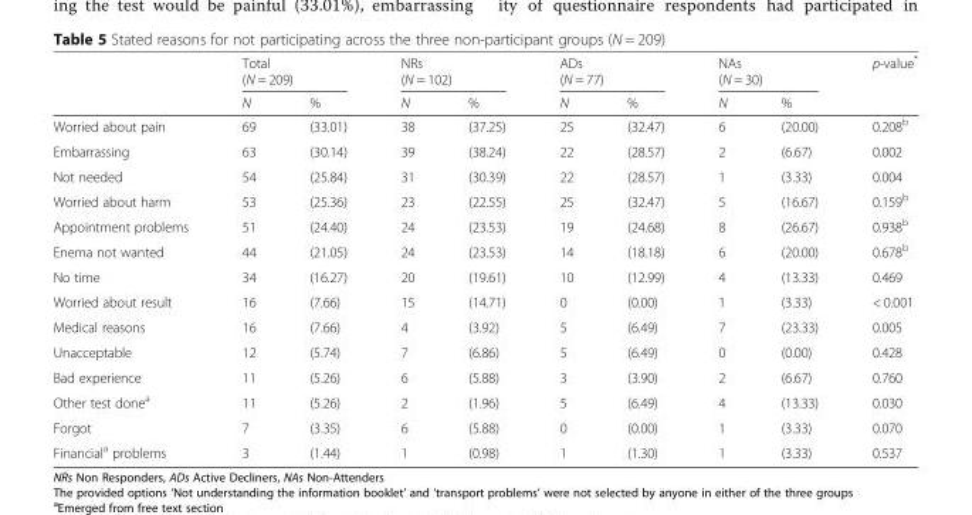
<table><thead><tr><td rowspan="2"></td><td colspan="2">Total (N = 209)</td><td colspan="2">NRs (N = 102)</td><td colspan="2">ADs (N = 77)</td><td colspan="2">NAs (N = 30)</td><td rowspan="2">p-value*</td></tr><tr><td>N</td><td>%</td><td>N</td><td>%</td><td>N</td><td>%</td><td>N</td><td>%</td></tr></thead><tbody><tr><td>Worried about pain</td><td>69</td><td>(33.01)</td><td>38</td><td>(37.25)</td><td>25</td><td>(32.47)</td><td>6</td><td>(20.00)</td><td>0.208<sup>b</sup></td></tr><tr><td>Embarrassing</td><td>63</td><td>(30.14)</td><td>39</td><td>(38.24)</td><td>22</td><td>(28.57)</td><td>2</td><td>(6.67)</td><td>0.002</td></tr><tr><td>Not needed</td><td>54</td><td>(25.84)</td><td>31</td><td>(30.39)</td><td>22</td><td>(28.57)</td><td>1</td><td>(3.33)</td><td>0.004</td></tr><tr><td>Worried about harm</td><td>53</td><td>(25.36)</td><td>23</td><td>(22.55)</td><td>25</td><td>(32.47)</td><td>5</td><td>(16.67)</td><td>0.159<sup>b</sup></td></tr><tr><td>Appointment problems</td><td>51</td><td>(24.40)</td><td>24</td><td>(23.53)</td><td>19</td><td>(24.68)</td><td>8</td><td>(26.67)</td><td>0.938<sup>b</sup></td></tr><tr><td>Enema not wanted</td><td>44</td><td>(21.05)</td><td>24</td><td>(23.53)</td><td>14</td><td>(18.18)</td><td>6</td><td>(20.00)</td><td>0.678<sup>b</sup></td></tr><tr><td>No time</td><td>34</td><td>(16.27)</td><td>20</td><td>(19.61)</td><td>10</td><td>(12.99)</td><td>4</td><td>(13.33)</td><td>0.469</td></tr><tr><td>Worried about result</td><td>16</td><td>(7.66)</td><td>15</td><td>(14.71)</td><td>0</td><td>(0.00)</td><td>1</td><td>(3.33)</td><td>&lt; 0.001</td></tr><tr><td>Medical reasons</td><td>16</td><td>(7.66)</td><td>4</td><td>(3.92)</td><td>5</td><td>(6.49)</td><td>7</td><td>(23.33)</td><td>0.005</td></tr><tr><td>Unacceptable</td><td>12</td><td>(5.74)</td><td>7</td><td>(6.86)</td><td>5</td><td>(6.49)</td><td>0</td><td>(0.00)</td><td>0.428</td></tr><tr><td>Bad experience</td><td>11</td><td>(5.26)</td><td>6</td><td>(5.88)</td><td>3</td><td>(3.90)</td><td>2</td><td>(6.67)</td><td>0.760</td></tr><tr><td>Other test done<sup>a</sup></td><td>11</td><td>(5.26)</td><td>2</td><td>(1.96)</td><td>5</td><td>(6.49)</td><td>4</td><td>(13.33)</td><td>0.030</td></tr><tr><td>Forgot</td><td>7</td><td>(3.35)</td><td>6</td><td>(5.88)</td><td>0</td><td>(0.00)</td><td>1</td><td>(3.33)</td><td>0.070</td></tr><tr><td>Financial<sup>a</sup> problems</td><td>3</td><td>(1.44)</td><td>1</td><td>(0.98)</td><td>1</td><td>(1.30)</td><td>1</td><td>(3.33)</td><td>0.537</td></tr></tbody></table>